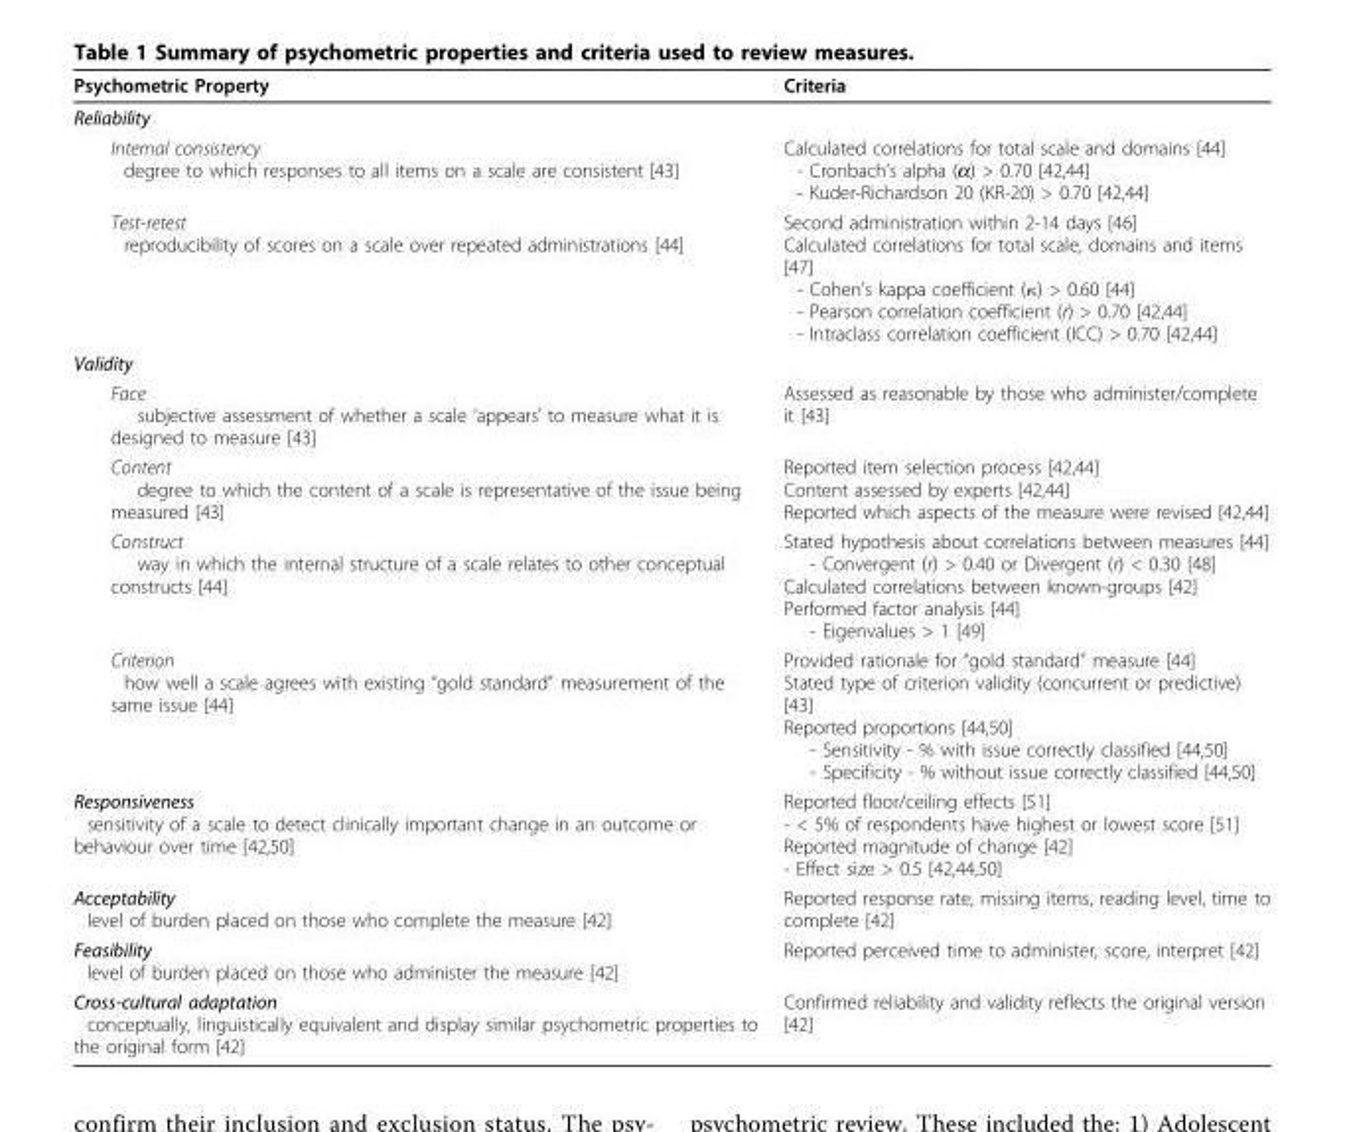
<table><thead><tr><td>Psychometric Property</td><td>Criteria</td></tr></thead><tbody><tr><td colspan="2">Reliability</td></tr><tr><td>Internal consistency degree to which responses to all items on a scale are consistent [43]</td><td>Calculated correlations for total scale and domains [44] - Cronbach’s alpha (α) &gt; 0.70 [42,44] - Kuder-Richardson 20 (KR-20) &gt; 0.70 [42,44]</td></tr><tr><td>Test-retest reproducibility of scores on a scale over repeated administrations [44]</td><td>Second administration within 2-14 days [46] Calculated correlations for total scale, domains and items [47] - Cohen’s kappa coefficient (κ) &gt; 0.60 [44] - Pearson correlation coefficient (r) &gt; 0.70 [42,44] - Intraclass correlation coefficient (ICC) &gt; 0.70 [42,44]</td></tr><tr><td colspan="2">Validity</td></tr><tr><td>Face subjective assessment of whether a scale ‘appears’ to measure what it is designed to measure [43]</td><td>Assessed as reasonable by those who administer/complete it [43]</td></tr><tr><td>Content degree to which the content of a scale is representative of the issue being measured [43]</td><td>Reported item selection process [42,44] Content assessed by experts [42,44] Reported which aspects of the measure were revised [42,44]</td></tr><tr><td>Construct way in which the internal structure of a scale relates to other conceptual constructs [44]</td><td>Stated hypothesis about correlations between measures [44] - Convergent (r) &gt; 0.40 or Divergent (r) &lt; 0.30 [48] Calculated correlations between known-groups [42] Performed factor analysis [44] - Eigenvalues &gt; 1 [49]</td></tr><tr><td>Criterion how well a scale agrees with existing “gold standard” measurement of the same issue [44]</td><td>Provided rationale for “gold standard” measure [44] Stated type of criterion validity (concurrent or predictive) [43] Reported proportions [44,50] - Sensitivity - % with issue correctly classified [44,50] - Specificity - % without issue correctly classified [44,50]</td></tr><tr><td>Responsiveness sensitivity of a scale to detect clinically important change in an outcome or behaviour over time [42,50]</td><td>Reported floor/ceiling effects [51] - &lt; 5% of respondents have highest or lowest score [51] Reported magnitude of change [42] - Effect size &gt; 0.5 [42,44,50]</td></tr><tr><td>Acceptability level of burden placed on those who complete the measure [42]</td><td>Reported response rate, missing items, reading level, time to complete [42]</td></tr><tr><td>Feasibility level of burden placed on those who administer the measure [42]</td><td>Reported perceived time to administer, score, interpret [42]</td></tr><tr><td>Cross-cultural adaptation conceptually, linguistically equivalent and display similar psychometric properties to the original form [42]</td><td>Confirmed reliability and validity reflects the original version [42]</td></tr></tbody></table>